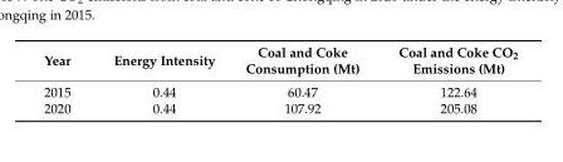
<table><thead><tr><td>Year</td><td>Energy Intensity</td><td>Coal and Coke Consumption (Mt)</td><td>Coal and Coke CO<sub>2</sub> Emissions (Mt)</td></tr></thead><tbody><tr><td>2015</td><td>0.44</td><td>60.47</td><td>122.64</td></tr><tr><td>2020</td><td>0.44</td><td>107.92</td><td>205.08</td></tr></tbody></table>